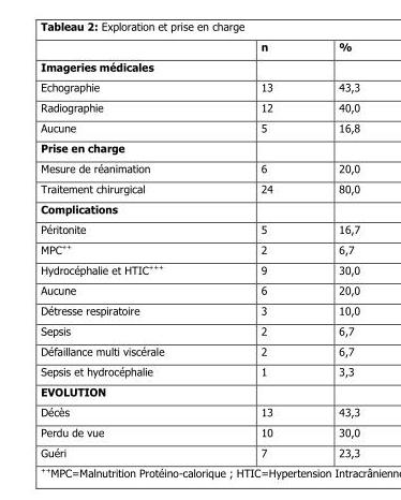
<table><thead><tr><td></td><td>n</td><td>%</td></tr></thead><tbody><tr><td colspan="3">Imageries médicales</td></tr><tr><td>Echographie</td><td>13</td><td>43,3</td></tr><tr><td>Radiographie</td><td>12</td><td>40,0</td></tr><tr><td>Aucune</td><td>5</td><td>16,8</td></tr><tr><td colspan="3">Prise en charge</td></tr><tr><td>Mesure de réanimation</td><td>6</td><td>20,0</td></tr><tr><td>Traitement chirurgical</td><td>24</td><td>80,0</td></tr><tr><td colspan="3">Complications</td></tr><tr><td>Péritonite</td><td>5</td><td>16,7</td></tr><tr><td>MPC++</td><td>2</td><td>6,7</td></tr><tr><td>Hydrocéphalie et HTIC<sup>+++</sup></td><td>9</td><td>30,0</td></tr><tr><td>Aucune</td><td>6</td><td>20,0</td></tr><tr><td>Détresse respiratoire</td><td>3</td><td>10,0</td></tr><tr><td>Sepsis</td><td>2</td><td>6,7</td></tr><tr><td>Défaillance multi viscérale</td><td>2</td><td>6,7</td></tr><tr><td>Sepsis et hydrocéphalie</td><td>1</td><td>3,3</td></tr><tr><td colspan="3">EVOLUTION</td></tr><tr><td>Décès</td><td>13</td><td>43,3</td></tr><tr><td>Perdu de vue</td><td>10</td><td>30,0</td></tr><tr><td>Guéri</td><td>7</td><td>23,3</td></tr></tbody></table>